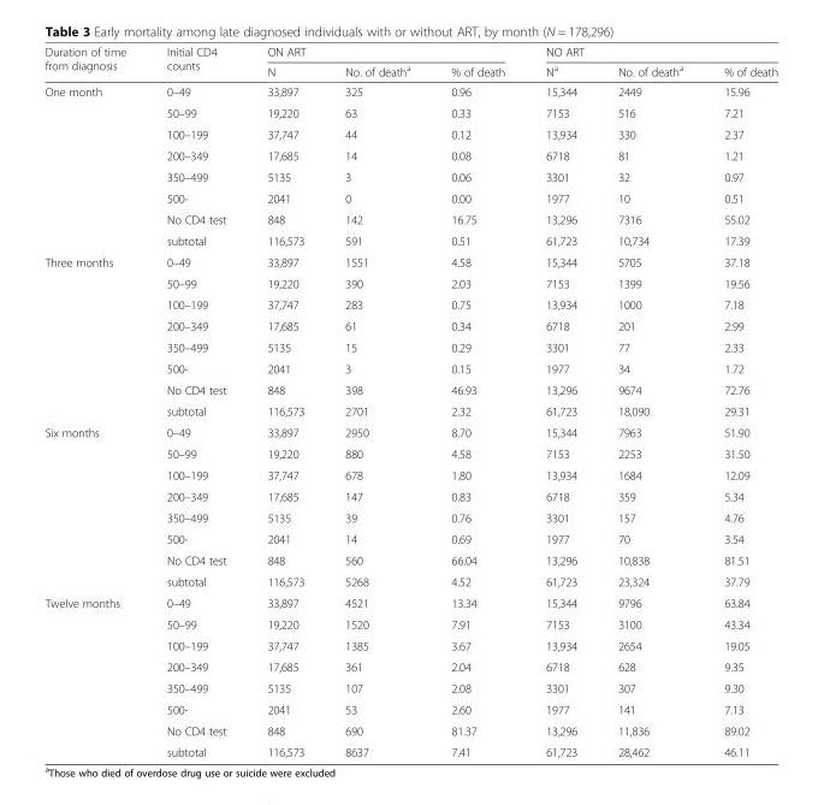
<table><thead><tr><td rowspan="2">Duration of time from diagnosis</td><td rowspan="2">Initial CD4 counts</td><td colspan="3">ON ART</td><td colspan="3">NO ART</td></tr><tr><td>N</td><td>No. of death<sup>a</sup></td><td>% of death</td><td>N<sup>a</sup></td><td>No. of death<sup>a</sup></td><td>% of death</td></tr></thead><tbody><tr><td rowspan="8">One month</td><td>0–49</td><td>33,897</td><td>325</td><td>0.96</td><td>15,344</td><td>2449</td><td>15.96</td></tr><tr><td>50–99</td><td>19,220</td><td>63</td><td>0.33</td><td>7153</td><td>516</td><td>7.21</td></tr><tr><td>100–199</td><td>37,747</td><td>44</td><td>0.12</td><td>13,934</td><td>330</td><td>2.37</td></tr><tr><td>200–349</td><td>17,685</td><td>14</td><td>0.08</td><td>6718</td><td>81</td><td>1.21</td></tr><tr><td>350–499</td><td>5135</td><td>3</td><td>0.06</td><td>3301</td><td>32</td><td>0.97</td></tr><tr><td>500-</td><td>2041</td><td>0</td><td>0.00</td><td>1977</td><td>10</td><td>0.51</td></tr><tr><td>No CD4 test</td><td>848</td><td>142</td><td>16.75</td><td>13,296</td><td>7316</td><td>55.02</td></tr><tr><td>subtotal</td><td>116,573</td><td>591</td><td>0.51</td><td>61,723</td><td>10,734</td><td>17.39</td></tr><tr><td rowspan="8">Three months</td><td>0–49</td><td>33,897</td><td>1551</td><td>4.58</td><td>15,344</td><td>5705</td><td>37.18</td></tr><tr><td>50–99</td><td>19,220</td><td>390</td><td>2.03</td><td>7153</td><td>1399</td><td>19.56</td></tr><tr><td>100–199</td><td>37,747</td><td>283</td><td>0.75</td><td>13,934</td><td>1000</td><td>7.18</td></tr><tr><td>200–349</td><td>17,685</td><td>61</td><td>0.34</td><td>6718</td><td>201</td><td>2.99</td></tr><tr><td>350–499</td><td>5135</td><td>15</td><td>0.29</td><td>3301</td><td>77</td><td>2.33</td></tr><tr><td>500-</td><td>2041</td><td>3</td><td>0.15</td><td>1977</td><td>34</td><td>1.72</td></tr><tr><td>No CD4 test</td><td>848</td><td>398</td><td>46.93</td><td>13,296</td><td>9674</td><td>72.76</td></tr><tr><td>subtotal</td><td>116,573</td><td>2701</td><td>2.32</td><td>61,723</td><td>18,090</td><td>29.31</td></tr><tr><td rowspan="8">Six months</td><td>0–49</td><td>33,897</td><td>2950</td><td>8.70</td><td>15,344</td><td>7963</td><td>51.90</td></tr><tr><td>50–99</td><td>19,220</td><td>880</td><td>4.58</td><td>7153</td><td>2253</td><td>31.50</td></tr><tr><td>100–199</td><td>37,747</td><td>678</td><td>1.80</td><td>13,934</td><td>1684</td><td>12.09</td></tr><tr><td>200–349</td><td>17,685</td><td>147</td><td>0.83</td><td>6718</td><td>359</td><td>5.34</td></tr><tr><td>350–499</td><td>5135</td><td>39</td><td>0.76</td><td>3301</td><td>157</td><td>4.76</td></tr><tr><td>500-</td><td>2041</td><td>14</td><td>0.69</td><td>1977</td><td>70</td><td>3.54</td></tr><tr><td>No CD4 test</td><td>848</td><td>560</td><td>66.04</td><td>13,296</td><td>10,838</td><td>81.51</td></tr><tr><td>subtotal</td><td>116,573</td><td>5268</td><td>4.52</td><td>61,723</td><td>23,324</td><td>37.79</td></tr><tr><td rowspan="8">Twelve months</td><td>0–49</td><td>33,897</td><td>4521</td><td>13.34</td><td>15,344</td><td>9796</td><td>63.84</td></tr><tr><td>50–99</td><td>19,220</td><td>1520</td><td>7.91</td><td>7153</td><td>3100</td><td>43.34</td></tr><tr><td>100–199</td><td>37,747</td><td>1385</td><td>3.67</td><td>13,934</td><td>2654</td><td>19.05</td></tr><tr><td>200–349</td><td>17,685</td><td>361</td><td>2.04</td><td>6718</td><td>628</td><td>9.35</td></tr><tr><td>350–499</td><td>5135</td><td>107</td><td>2.08</td><td>3301</td><td>307</td><td>9.30</td></tr><tr><td>500-</td><td>2041</td><td>53</td><td>2.60</td><td>1977</td><td>141</td><td>7.13</td></tr><tr><td>No CD4 test</td><td>848</td><td>690</td><td>81.37</td><td>13,296</td><td>11,836</td><td>89.02</td></tr><tr><td>subtotal</td><td>116,573</td><td>8637</td><td>7.41</td><td>61,723</td><td>28,462</td><td>46.11</td></tr></tbody></table>